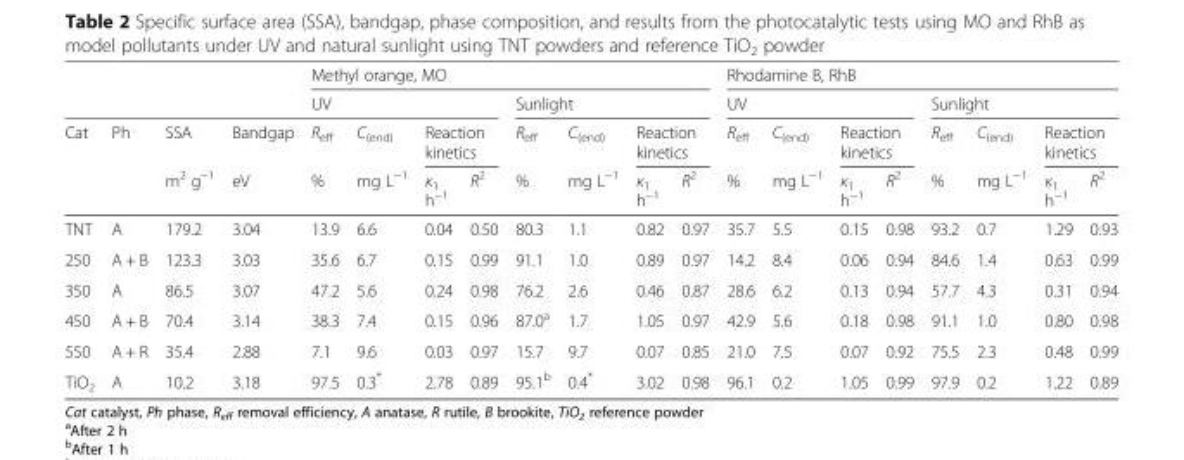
<table><thead><tr><td rowspan="4">Cat</td><td rowspan="4">Ph</td><td rowspan="4">SSA m<sup>2</sup> g<sup>−1</sup></td><td rowspan="4">Bandgap eV</td><td colspan="8">Methyl orange, MO</td><td colspan="8">Rhodamine B, RhB</td></tr><tr><td colspan="4">UV</td><td colspan="4">Sunlight</td><td colspan="4">UV</td><td colspan="4">Sunlight</td></tr><tr><td rowspan="2">R<sub>eff</sub> %</td><td rowspan="2">C<sub>(end)</sub> mg L<sup>−1</sup></td><td colspan="2">Reaction kinetics</td><td rowspan="2">R<sub>eff</sub> %</td><td rowspan="2">C<sub>(end)</sub> mg L<sup>−1</sup></td><td colspan="2">Reaction kinetics</td><td rowspan="2">R<sub>eff</sub> %</td><td rowspan="2">C<sub>(end)</sub> mg L<sup>−1</sup></td><td colspan="2">Reaction kinetics</td><td rowspan="2">R<sub>eff</sub> %</td><td rowspan="2">C<sub>(end)</sub> mg L<sup>−1</sup></td><td colspan="2">Reaction kinetics</td></tr><tr><td>κ<sub>1</sub> h<sup>−1</sup></td><td>R<sup>2</sup></td><td>κ<sub>1</sub> h<sup>−1</sup></td><td>R<sup>2</sup></td><td>κ<sub>1</sub> h<sup>−1</sup></td><td>R<sup>2</sup></td><td>κ<sub>1</sub> h<sup>−1</sup></td><td>R<sup>2</sup></td></tr></thead><tbody><tr><td>TNT</td><td>A</td><td>179.2</td><td>3.04</td><td>13.9</td><td>6.6</td><td>0.04</td><td>0.50</td><td>80.3</td><td>1.1</td><td>0.82</td><td>0.97</td><td>35.7</td><td>5.5</td><td>0.15</td><td>0.98</td><td>93.2</td><td>0.7</td><td>1.29</td><td>0.93</td></tr><tr><td>250</td><td>A + B</td><td>123.3</td><td>3.03</td><td>35.6</td><td>6.7</td><td>0.15</td><td>0.99</td><td>91.1</td><td>1.0</td><td>0.89</td><td>0.97</td><td>14.2</td><td>8.4</td><td>0.06</td><td>0.94</td><td>84.6</td><td>1.4</td><td>0.63</td><td>0.99</td></tr><tr><td>350</td><td>A</td><td>86.5</td><td>3.07</td><td>47.2</td><td>5.6</td><td>0.24</td><td>0.98</td><td>76.2</td><td>2.6</td><td>0.46</td><td>0.87</td><td>28.6</td><td>6.2</td><td>0.13</td><td>0.94</td><td>57.7</td><td>4.3</td><td>0.31</td><td>0.94</td></tr><tr><td>450</td><td>A + B</td><td>70.4</td><td>3.14</td><td>38.3</td><td>7.4</td><td>0.15</td><td>0.96</td><td>87.0<sup>a</sup></td><td>1.7</td><td>1.05</td><td>0.97</td><td>42.9</td><td>5.6</td><td>0.18</td><td>0.98</td><td>91.1</td><td>1.0</td><td>0.80</td><td>0.98</td></tr><tr><td>550</td><td>A + R</td><td>35.4</td><td>2.88</td><td>7.1</td><td>9.6</td><td>0.03</td><td>0.97</td><td>15.7</td><td>9.7</td><td>0.07</td><td>0.85</td><td>21.0</td><td>7.5</td><td>0.07</td><td>0.92</td><td>75.5</td><td>2.3</td><td>0.48</td><td>0.99</td></tr><tr><td>TiO<sub>2</sub></td><td>A</td><td>10.2</td><td>3.18</td><td>97.5</td><td>0.3*</td><td>2.78</td><td>0.89</td><td>95.1<sup>b</sup></td><td>0.4*</td><td>3.02</td><td>0.98</td><td>96.1</td><td>0.2</td><td>1.05</td><td>0.99</td><td>97.9</td><td>0.2</td><td>1.22</td><td>0.89</td></tr></tbody></table>